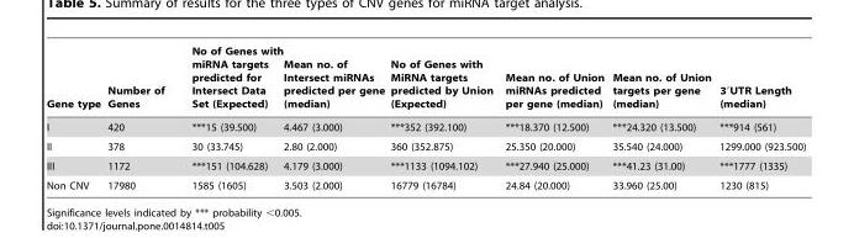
<table><thead><tr><td>Gene type</td><td>Number of Genes</td><td>No of Genes with miRNA targets predicted for Intersect Data Set (Expected)</td><td>Mean no. of Intersect miRNAs predicted per gene (median)</td><td>No of Genes with MiRNA targets predicted by Union (Expected)</td><td>Mean no. of Union miRNAs predicted per gene (median)</td><td>Mean no. of Union targets per gene (median)</td><td>3′UTR Length (median)</td></tr></thead><tbody><tr><td>I</td><td>420</td><td>***15 (39.500)</td><td>4.467 (3.000)</td><td>***352 (392.100)</td><td>***18.370 (12.500)</td><td>***24.320 (13.500)</td><td>***914 (561)</td></tr><tr><td>II</td><td>378</td><td>30 (33.745)</td><td>2.80 (2.000)</td><td>360 (352.875)</td><td>25.350 (20.000)</td><td>35.540 (24.000)</td><td>1299.000 (923.500)</td></tr><tr><td>III</td><td>1172</td><td>***151 (104.628)</td><td>4.179 (3.000)</td><td>***1133 (1094.102)</td><td>***27.940 (25.000)</td><td>***41.23 (31.00)</td><td>***1777 (1335)</td></tr><tr><td>Non CNV</td><td>17980</td><td>1585 (1605)</td><td>3.503 (2.000)</td><td>16779 (16784)</td><td>24.84 (20.000)</td><td>33.960 (25.00)</td><td>1230 (815)</td></tr></tbody></table>